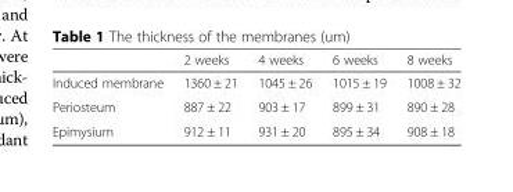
<table><thead><tr><td></td><td>2 weeks</td><td>4 weeks</td><td>6 weeks</td><td>8 weeks</td></tr></thead><tbody><tr><td>Induced membrane</td><td>1360 ± 21</td><td>1045 ± 26</td><td>1015 ± 19</td><td>1008 ± 32</td></tr><tr><td>Periosteum</td><td>887 ± 22</td><td>903 ± 17</td><td>899 ± 31</td><td>890 ± 28</td></tr><tr><td>Epimysium</td><td>912 ± 11</td><td>931 ± 20</td><td>895 ± 34</td><td>908 ± 18</td></tr></tbody></table>